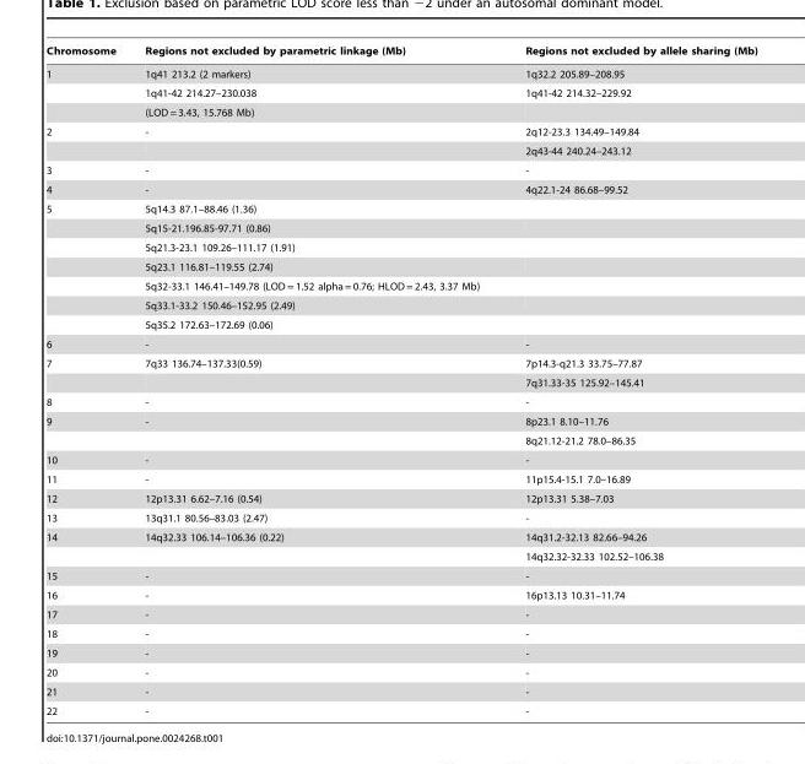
<table><thead><tr><td>Chromosome</td><td>Regions not excluded by parametric linkage (Mb)</td><td>Regions not excluded by allele sharing (Mb)</td></tr></thead><tbody><tr><td rowspan="3">1</td><td>1q41 213.2 (2 markers)</td><td>1q32.2 205.89–208.95</td></tr><tr><td>1q41-42 214.27–230.038</td><td>1q41-42 214.32–229.92</td></tr><tr><td>(LOD = 3.43, 15.768 Mb)</td><td></td></tr><tr><td rowspan="2">2</td><td>-</td><td>2q12-23.3 134.49–149.84</td></tr><tr><td></td><td>2q43-44 240.24–243.12</td></tr><tr><td>3</td><td>-</td><td>-</td></tr><tr><td>4</td><td>-</td><td>4q22.1-24 86.68–99.52</td></tr><tr><td rowspan="7">5</td><td>5q14.3 87.1–88.46 (1.36)</td><td></td></tr><tr><td>5q15-21.196.85-97.71 (0.86)</td><td></td></tr><tr><td>5q21.3-23.1 109.26–111.17 (1.91)</td><td></td></tr><tr><td>5q23.1 116.81–119.55 (2.74)</td><td></td></tr><tr><td>5q32-33.1 146.41–149.78 (LOD = 1.52 alpha = 0.76; HLOD = 2.43, 3.37 Mb)</td><td></td></tr><tr><td>5q33.1-33.2 150.46–152.95 (2.49)</td><td></td></tr><tr><td>5q35.2 172.63–172.69 (0.06)</td><td></td></tr><tr><td>6</td><td>-</td><td>-</td></tr><tr><td rowspan="2">7</td><td>7q33 136.74–137.33(0.59)</td><td>7p14.3-q21.3 33.75–77.87</td></tr><tr><td></td><td>7q31.33-35 125.92–145.41</td></tr><tr><td>8</td><td>-</td><td>-</td></tr><tr><td rowspan="2">9</td><td>-</td><td>8p23.1 8.10–11.76</td></tr><tr><td></td><td>8q21.12-21.2 78.0–86.35</td></tr><tr><td>10</td><td>-</td><td>-</td></tr><tr><td>11</td><td>-</td><td>11p15.4-15.1 7.0–16.89</td></tr><tr><td>12</td><td>12p13.31 6.62–7.16 (0.54)</td><td>12p13.31 5.38–7.03</td></tr><tr><td>13</td><td>13q31.1 80.56–83.03 (2.47)</td><td>-</td></tr><tr><td rowspan="2">14</td><td>14q32.33 106.14–106.36 (0.22)</td><td>14q31.2-32.13 82.66–94.26</td></tr><tr><td></td><td>14q32.32-32.33 102.52–106.38</td></tr><tr><td>15</td><td>-</td><td>-</td></tr><tr><td>16</td><td>-</td><td>16p13.13 10.31–11.74</td></tr><tr><td>17</td><td>-</td><td>-</td></tr><tr><td>18</td><td>-</td><td>-</td></tr><tr><td>19</td><td>-</td><td>-</td></tr><tr><td>20</td><td>-</td><td>-</td></tr><tr><td>21</td><td>-</td><td>-</td></tr><tr><td>22</td><td>-</td><td>-</td></tr></tbody></table>